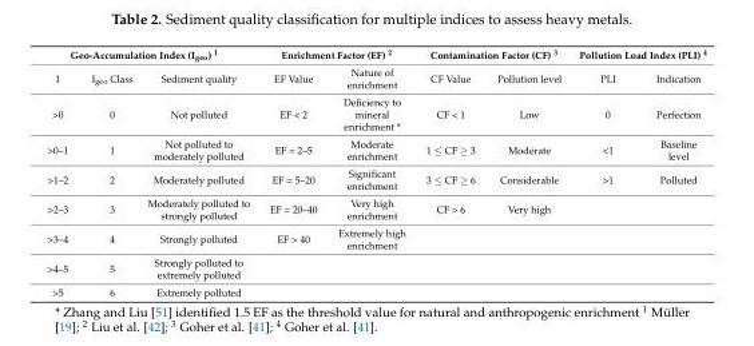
<table><thead><tr><td colspan="3">Geo-Accumulation Index (I<sub>geo</sub>) <sup>1</sup></td><td colspan="2">Enrichment Factor (EF) <sup>2</sup></td><td colspan="2">Contamination Factor (CF) <sup>3</sup></td><td colspan="2">Pollution Load Index (PLI) <sup>4</sup></td></tr><tr><td>I</td><td>I<sub>geo</sub> Class</td><td>Sediment quality</td><td>EF Value</td><td>Nature of enrichment</td><td>CF Value</td><td>Pollution level</td><td>PLI</td><td>Indication</td></tr></thead><tbody><tr><td>&gt;0</td><td>0</td><td>Not polluted</td><td>EF &lt; 2</td><td>Deficiency to mineral enrichment *</td><td>CF &lt; 1</td><td>Low</td><td>0</td><td>Perfection</td></tr><tr><td>&gt;0–1</td><td>1</td><td>Not polluted to moderately polluted</td><td>EF = 2–5</td><td>Moderate enrichment</td><td>1 ≤ CF ≥ 3</td><td>Moderate</td><td>&lt;1</td><td>Baseline level</td></tr><tr><td>&gt;1–2</td><td>2</td><td>Moderately polluted</td><td>EF = 5–20</td><td>Significant enrichment</td><td>3 ≤ CF ≥ 6</td><td>Considerable</td><td>&gt;1</td><td>Polluted</td></tr><tr><td>&gt;2–3</td><td>3</td><td>Moderately polluted to strongly polluted</td><td>EF = 20–40</td><td>Very high enrichment</td><td>CF &gt; 6</td><td>Very high</td><td></td><td></td></tr><tr><td>&gt;3–4</td><td>4</td><td>Strongly polluted</td><td>EF &gt; 40</td><td>Extremely high enrichment</td><td></td><td></td><td colspan="2"></td></tr><tr><td>&gt;4–5</td><td>5</td><td>Strongly polluted to extremely polluted</td><td></td><td></td><td colspan="2"></td><td colspan="2"></td></tr><tr><td>&gt;5</td><td>6</td><td>Extremely polluted</td><td></td><td></td><td colspan="2"></td><td colspan="2"></td></tr></tbody></table>